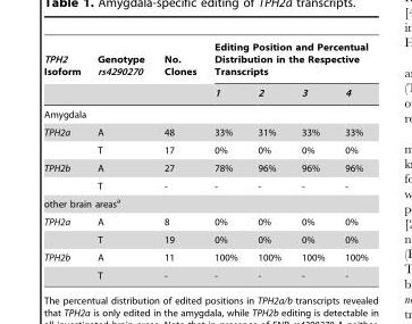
<table><thead><tr><td rowspan="2">TPH2 Isoform</td><td rowspan="2">Genotype rs4290270</td><td rowspan="2">No. Clones</td><td colspan="4">Editing Position and Percentual Distribution in the Respective Transcripts</td></tr><tr><td>1</td><td>2</td><td>3</td><td>4</td></tr></thead><tbody><tr><td colspan="7">Amygdala</td></tr><tr><td rowspan="2">TPH2a</td><td>A</td><td>48</td><td>33%</td><td>31%</td><td>33%</td><td>33%</td></tr><tr><td>T</td><td>17</td><td>0%</td><td>0%</td><td>0%</td><td>0%</td></tr><tr><td rowspan="2">TPH2b</td><td>A</td><td>27</td><td>78%</td><td>96%</td><td>96%</td><td>96%</td></tr><tr><td>T</td><td>-</td><td>-</td><td>-</td><td>-</td><td>-</td></tr><tr><td colspan="7">other brain areas<sup>a</sup></td></tr><tr><td rowspan="2">TPH2a</td><td>A</td><td>8</td><td>0%</td><td>0%</td><td>0%</td><td>0%</td></tr><tr><td>T</td><td>19</td><td>0%</td><td>0%</td><td>0%</td><td>0%</td></tr><tr><td rowspan="2">TPH2b</td><td>A</td><td>11</td><td>100%</td><td>100%</td><td>100%</td><td>100%</td></tr><tr><td>T</td><td>-</td><td>-</td><td>-</td><td>-</td><td>-</td></tr></tbody></table>